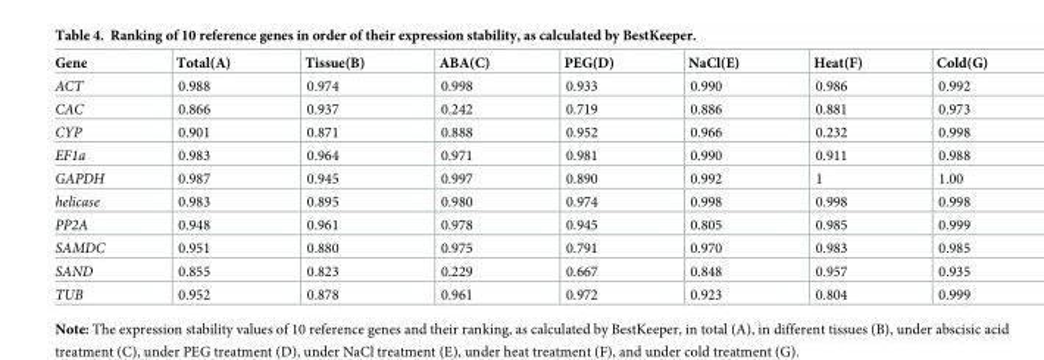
<table><thead><tr><td>Gene</td><td>Total(A)</td><td>Tissue(B)</td><td>ABA(C)</td><td>PEG(D)</td><td>NaCl(E)</td><td>Heat(F)</td><td>Cold(G)</td></tr></thead><tbody><tr><td>ACT</td><td>0.988</td><td>0.974</td><td>0.998</td><td>0.933</td><td>0.990</td><td>0.986</td><td>0.992</td></tr><tr><td>CAC</td><td>0.866</td><td>0.937</td><td>0.242</td><td>0.719</td><td>0.886</td><td>0.881</td><td>0.973</td></tr><tr><td>CYP</td><td>0.901</td><td>0.871</td><td>0.888</td><td>0.952</td><td>0.966</td><td>0.232</td><td>0.998</td></tr><tr><td>EF1a</td><td>0.983</td><td>0.964</td><td>0.971</td><td>0.981</td><td>0.990</td><td>0.911</td><td>0.988</td></tr><tr><td>GAPDH</td><td>0.987</td><td>0.945</td><td>0.997</td><td>0.890</td><td>0.992</td><td>1</td><td>1.00</td></tr><tr><td>helicase</td><td>0.983</td><td>0.895</td><td>0.980</td><td>0.974</td><td>0.998</td><td>0.998</td><td>0.998</td></tr><tr><td>PP2A</td><td>0.948</td><td>0.961</td><td>0.978</td><td>0.945</td><td>0.805</td><td>0.985</td><td>0.999</td></tr><tr><td>SAMDC</td><td>0.951</td><td>0.880</td><td>0.975</td><td>0.791</td><td>0.970</td><td>0.983</td><td>0.985</td></tr><tr><td>SAND</td><td>0.855</td><td>0.823</td><td>0.229</td><td>0.667</td><td>0.848</td><td>0.957</td><td>0.935</td></tr><tr><td>TUB</td><td>0.952</td><td>0.878</td><td>0.961</td><td>0.972</td><td>0.923</td><td>0.804</td><td>0.999</td></tr></tbody></table>